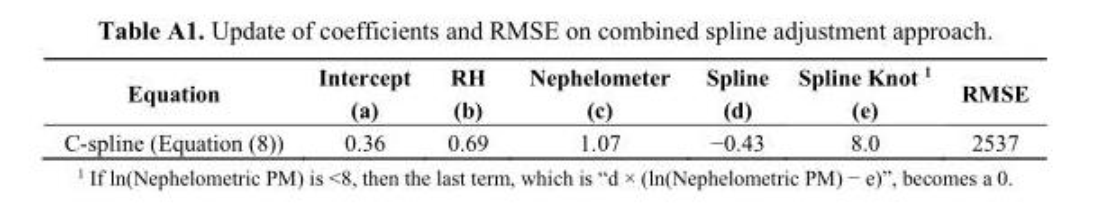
<table><thead><tr><td>Equation</td><td>Intercept (a)</td><td>RH (b)</td><td>Nephelometer (c)</td><td>Spline (d)</td><td>Spline Knot <sup>1</sup> (e)</td><td>RMSE</td></tr></thead><tbody><tr><td>C-spline (Equation (8))</td><td>0.36</td><td>0.69</td><td>1.07</td><td>−0.43</td><td>8.0</td><td>2537</td></tr></tbody></table>